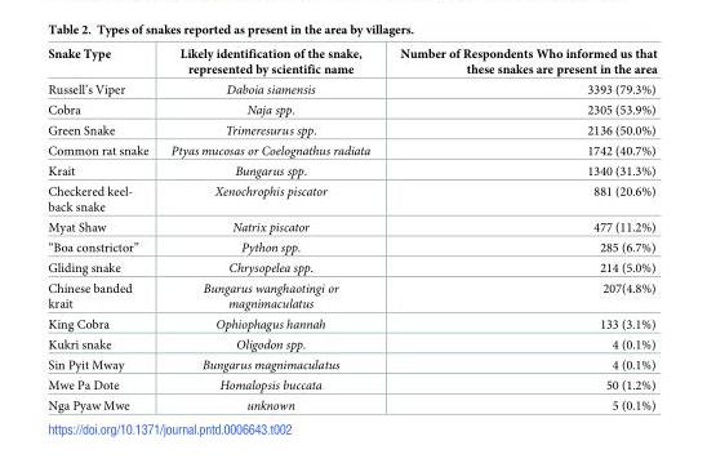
<table><thead><tr><td>Snake Type</td><td>Likely identification of the snake, represented by scientific name</td><td>Number of Respondents Who informed us that these snakes are present in the area</td></tr></thead><tbody><tr><td>Russell’s Viper</td><td>Daboia siamensis</td><td>3393 (79.3%)</td></tr><tr><td>Cobra</td><td>Naja spp.</td><td>2305 (53.9%)</td></tr><tr><td>Green Snake</td><td>Trimeresurus spp.</td><td>2136 (50.0%)</td></tr><tr><td>Common rat snake</td><td>Ptyas mucosas or Coelognathus radiata</td><td>1742 (40.7%)</td></tr><tr><td>Krait</td><td>Bungarus spp.</td><td>1340 (31.3%)</td></tr><tr><td>Checkered keel- back snake</td><td>Xenochrophis piscator</td><td>881 (20.6%)</td></tr><tr><td>Myat Shaw</td><td>Natrix piscator</td><td>477 (11.2%)</td></tr><tr><td>“Boa constrictor”</td><td>Python spp.</td><td>285 (6.7%)</td></tr><tr><td>Gliding snake</td><td>Chrysopelea spp.</td><td>214 (5.0%)</td></tr><tr><td>Chinese banded krait</td><td>Bungarus wanghaotingi or magnimaculatus</td><td>207(4.8%)</td></tr><tr><td>King Cobra</td><td>Ophiophagus hannah</td><td>133 (3.1%)</td></tr><tr><td>Kukri snake</td><td>Oligodon spp.</td><td>4 (0.1%)</td></tr><tr><td>Sin Pyit Mway</td><td>Bungarus magnimaculatus</td><td>4 (0.1%)</td></tr><tr><td>Mwe Pa Dote</td><td>Homalopsis buccata</td><td>50 (1.2%)</td></tr><tr><td>Nga Pyaw Mwe</td><td>unknown</td><td>5 (0.1%)</td></tr></tbody></table>